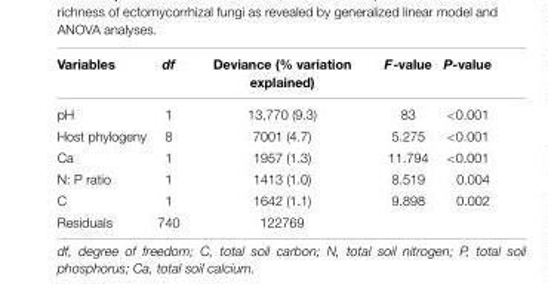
<table><thead><tr><td>Variables</td><td>df</td><td>Deviance (% variation explained)</td><td>F-value</td><td>P-value</td></tr></thead><tbody><tr><td>pH</td><td>1</td><td>13,770 (9.3)</td><td>83</td><td>&lt;0.001</td></tr><tr><td>Host phylogeny</td><td>8</td><td>7001 (4.7)</td><td>5.275</td><td>&lt;0.001</td></tr><tr><td>Ca</td><td>1</td><td>1957 (1.3)</td><td>11.794</td><td>&lt;0.001</td></tr><tr><td>N: P ratio</td><td>1</td><td>1413 (1.0)</td><td>8.519</td><td>0.004</td></tr><tr><td>C</td><td>1</td><td>1642 (1.1)</td><td>9.898</td><td>0.002</td></tr><tr><td>Residuals</td><td>740</td><td>122769</td><td></td><td></td></tr></tbody></table>